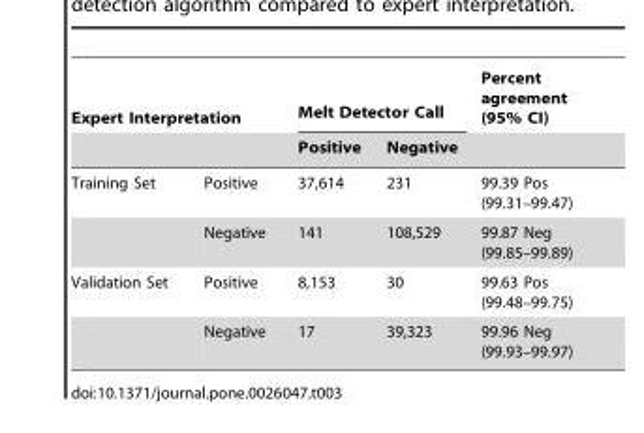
<table><thead><tr><td colspan="2">Expert Interpretation</td><td colspan="2">Melt Detector Call</td><td rowspan="2">Percent agreement (95% CI)</td></tr><tr><td></td><td></td><td>Positive</td><td>Negative</td></tr></thead><tbody><tr><td rowspan="2">Training Set</td><td>Positive</td><td>37,614</td><td>231</td><td>99.39 Pos (99.31–99.47)</td></tr><tr><td>Negative</td><td>141</td><td>108,529</td><td>99.87 Neg (99.85–99.89)</td></tr><tr><td rowspan="2">Validation Set</td><td>Positive</td><td>8,153</td><td>30</td><td>99.63 Pos (99.48–99.75)</td></tr><tr><td>Negative</td><td>17</td><td>39,323</td><td>99.96 Neg (99.93–99.97)</td></tr></tbody></table>